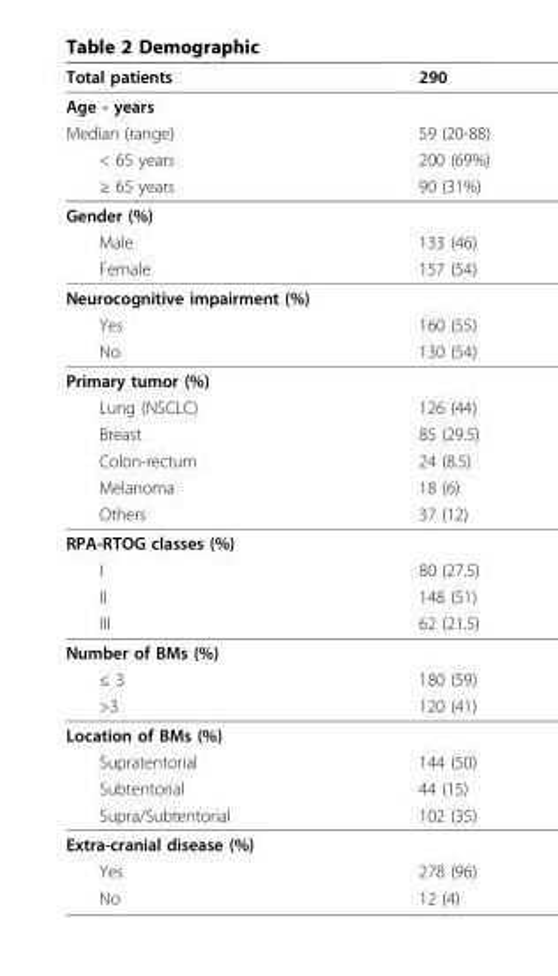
<table><thead><tr><td>Total patients</td><td>290</td></tr></thead><tbody><tr><td colspan="2">Age - years</td></tr><tr><td>Median (range)</td><td>59 (20-88)</td></tr><tr><td>&lt; 65 years</td><td>200 (69%)</td></tr><tr><td>≥ 65 years</td><td>90 (31%)</td></tr><tr><td colspan="2">Gender (%)</td></tr><tr><td>Male</td><td>133 (46)</td></tr><tr><td>Female</td><td>157 (54)</td></tr><tr><td colspan="2">Neurocognitive impairment (%)</td></tr><tr><td>Yes</td><td>160 (55)</td></tr><tr><td>No</td><td>130 (54)</td></tr><tr><td colspan="2">Primary tumor (%)</td></tr><tr><td>Lung (NSCLC)</td><td>126 (44)</td></tr><tr><td>Breast</td><td>85 (29.5)</td></tr><tr><td>Colon-rectum</td><td>24 (8.5)</td></tr><tr><td>Melanoma</td><td>18 (6)</td></tr><tr><td>Others</td><td>37 (12)</td></tr><tr><td colspan="2">RPA-RTOG classes (%)</td></tr><tr><td>I</td><td>80 (27.5)</td></tr><tr><td>II</td><td>148 (51)</td></tr><tr><td>III</td><td>62 (21.5)</td></tr><tr><td colspan="2">Number of BMs (%)</td></tr><tr><td>≤ 3</td><td>180 (59)</td></tr><tr><td>&gt;3</td><td>120 (41)</td></tr><tr><td colspan="2">Location of BMs (%)</td></tr><tr><td>Supratentorial</td><td>144 (50)</td></tr><tr><td>Subtentorial</td><td>44 (15)</td></tr><tr><td>Supra/Subtentorial</td><td>102 (35)</td></tr><tr><td colspan="2">Extra-cranial disease (%)</td></tr><tr><td>Yes</td><td>278 (96)</td></tr><tr><td>No</td><td>12 (4)</td></tr></tbody></table>